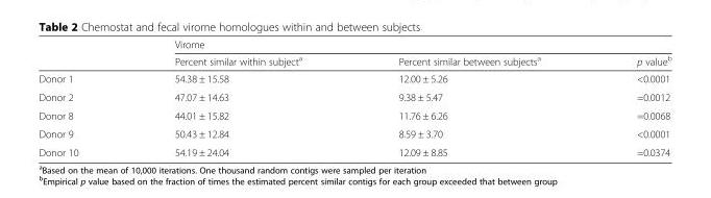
<table><thead><tr><td rowspan="2"></td><td colspan="3">Virome</td></tr><tr><td>Percent similar within subject<sup>a</sup></td><td>Percent similar between subjects<sup>a</sup></td><td>p value<sup>b</sup></td></tr></thead><tbody><tr><td>Donor 1</td><td>54.38 ± 15.58</td><td>12.00 ± 5.26</td><td>&lt;0.0001</td></tr><tr><td>Donor 2</td><td>47.07 ± 14.63</td><td>9.38 ± 5.47</td><td>=0.0012</td></tr><tr><td>Donor 8</td><td>44.01 ± 15.82</td><td>11.76 ± 6.26</td><td>=0.0068</td></tr><tr><td>Donor 9</td><td>50.43 ± 12.84</td><td>8.59 ± 3.70</td><td>&lt;0.0001</td></tr><tr><td>Donor 10</td><td>54.19 ± 24.04</td><td>12.09 ± 8.85</td><td>=0.0374</td></tr></tbody></table>